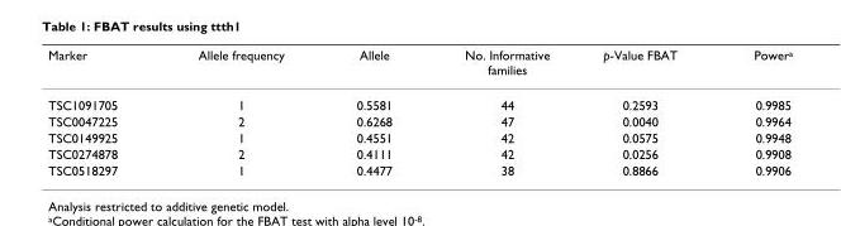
<table><thead><tr><td>Marker</td><td>Allele frequency</td><td>Allele</td><td>No. Informative families</td><td>p-Value FBAT</td><td>Powera</td></tr></thead><tbody><tr><td>TSC1091705</td><td>1</td><td>0.5581</td><td>44</td><td>0.2593</td><td>0.9985</td></tr><tr><td>TSC0047225</td><td>2</td><td>0.6268</td><td>47</td><td>0.0040</td><td>0.9964</td></tr><tr><td>TSC0149925</td><td>1</td><td>0.4551</td><td>42</td><td>0.0575</td><td>0.9948</td></tr><tr><td>TSC0274878</td><td>2</td><td>0.4111</td><td>42</td><td>0.0256</td><td>0.9908</td></tr><tr><td>TSC0518297</td><td>1</td><td>0.4477</td><td>38</td><td>0.8866</td><td>0.9906</td></tr></tbody></table>